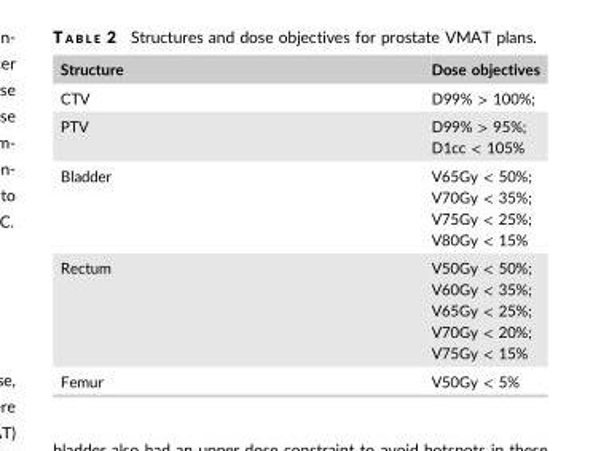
<table><thead><tr><td>Structure</td><td>Dose objectives</td></tr></thead><tbody><tr><td>CTV</td><td>D99% &gt; 100%;</td></tr><tr><td>PTV</td><td>D99% &gt; 95%; D1cc &lt; 105%</td></tr><tr><td>Bladder</td><td>V65Gy &lt; 50%; V70Gy &lt; 35%; V75Gy &lt; 25%; V80Gy &lt; 15%</td></tr><tr><td>Rectum</td><td>V50Gy &lt; 50%; V60Gy &lt; 35%; V65Gy &lt; 25%; V70Gy &lt; 20%; V75Gy &lt; 15%</td></tr><tr><td>Femur</td><td>V50Gy &lt; 5%</td></tr></tbody></table>